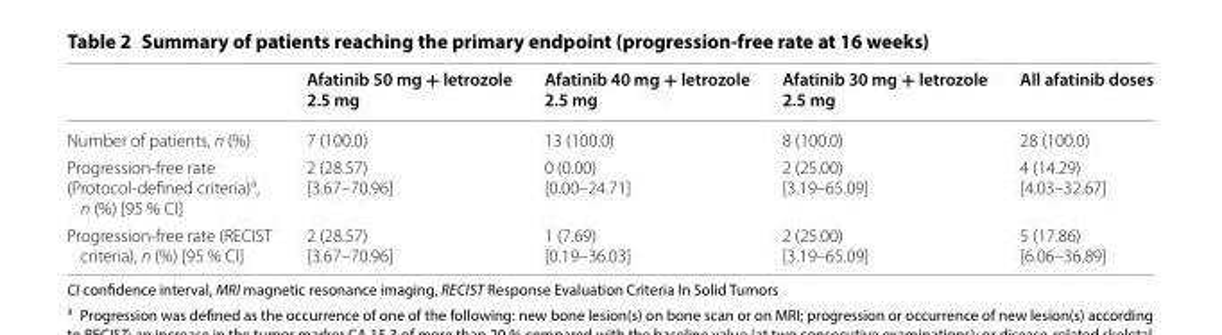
<table><thead><tr><td></td><td>Afatinib 50 mg + letrozole 2.5 mg</td><td>Afatinib 40 mg + letrozole 2.5 mg</td><td>Afatinib 30 mg + letrozole 2.5 mg</td><td>All afatinib doses</td></tr></thead><tbody><tr><td>Number of patients, n (%)</td><td>7 (100.0)</td><td>13 (100.0)</td><td>8 (100.0)</td><td>28 (100.0)</td></tr><tr><td>Progression‑free rate (Protocol‑defined criteria)<sup>a</sup>, n (%) [95 % CI]</td><td>2 (28.57) [3.67–70.96]</td><td>0 (0.00) [0.00–24.71]</td><td>2 (25.00) [3.19–65.09]</td><td>4 (14.29) [4.03–32.67]</td></tr><tr><td>Progression‑free rate (RECIST criteria), n (%) [95 % CI]</td><td>2 (28.57) [3.67–70.96]</td><td>1 (7.69) [0.19–36.03]</td><td>2 (25.00) [3.19–65.09]</td><td>5 (17.86) [6.06–36.89]</td></tr></tbody></table>